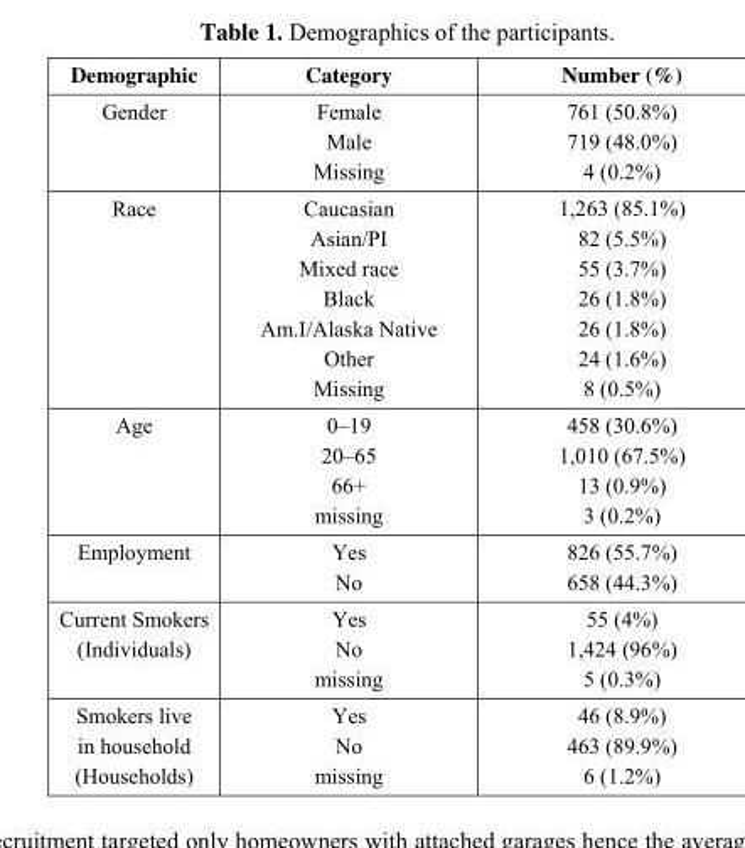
<table><thead><tr><td>Demographic</td><td>Category</td><td>Number (%)</td></tr></thead><tbody><tr><td>Gender</td><td>Female Male Missing</td><td>761 (50.8%) 719 (48.0%) 4 (0.2%)</td></tr><tr><td>Race</td><td>Caucasian Asian/PI Mixed race Black Am.I/Alaska Native Other Missing</td><td>1,263 (85.1%) 82 (5.5%) 55 (3.7%) 26 (1.8%) 26 (1.8%) 24 (1.6%) 8 (0.5%)</td></tr><tr><td>Age</td><td>0–19 20–65 66+ missing</td><td>458 (30.6%) 1,010 (67.5%) 13 (0.9%) 3 (0.2%)</td></tr><tr><td>Employment</td><td>Yes No</td><td>826 (55.7%) 658 (44.3%)</td></tr><tr><td>Current Smokers (Individuals)</td><td>Yes No missing</td><td>55 (4%) 1,424 (96%) 5 (0.3%)</td></tr><tr><td>Smokers live in household (Households)</td><td>Yes No missing</td><td>46 (8.9%) 463 (89.9%) 6 (1.2%)</td></tr></tbody></table>